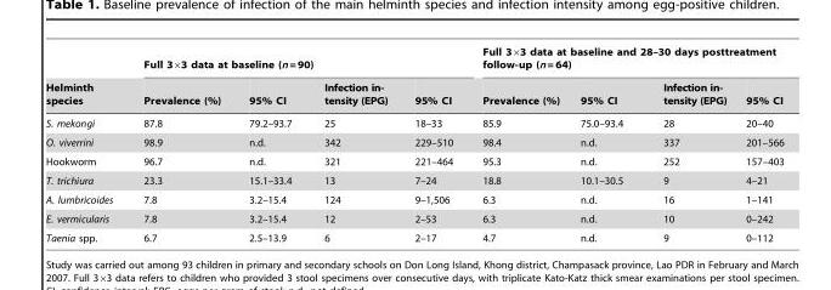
<table><thead><tr><td rowspan="2">Helminth species</td><td colspan="4">Full 3×3 data at baseline (n = 90)</td><td colspan="4">Full 3×3 data at baseline and 28–30 days posttreatment follow-up (n = 64)</td></tr><tr><td>Prevalence (%)</td><td>95% CI</td><td>Infection in- tensity (EPG)</td><td>95% CI</td><td>Prevalence (%)</td><td>95% CI</td><td>Infection in- tensity (EPG)</td><td>95% CI</td></tr></thead><tbody><tr><td>S. mekongi</td><td>87.8</td><td>79.2–93.7</td><td>25</td><td>18–33</td><td>85.9</td><td>75.0–93.4</td><td>28</td><td>20–40</td></tr><tr><td>O. viverrini</td><td>98.9</td><td>n.d.</td><td>342</td><td>229–510</td><td>98.4</td><td>n.d.</td><td>337</td><td>201–566</td></tr><tr><td>Hookworm</td><td>96.7</td><td>n.d.</td><td>321</td><td>221–464</td><td>95.3</td><td>n.d.</td><td>252</td><td>157–403</td></tr><tr><td>T. trichiura</td><td>23.3</td><td>15.1–33.4</td><td>13</td><td>7–24</td><td>18.8</td><td>10.1–30.5</td><td>9</td><td>4–21</td></tr><tr><td>A. lumbricoides</td><td>7.8</td><td>3.2–15.4</td><td>124</td><td>9–1,506</td><td>6.3</td><td>n.d.</td><td>16</td><td>1–141</td></tr><tr><td>E. vermicularis</td><td>7.8</td><td>3.2–15.4</td><td>12</td><td>2–53</td><td>6.3</td><td>n.d.</td><td>10</td><td>0–242</td></tr><tr><td>Taenia spp.</td><td>6.7</td><td>2.5–13.9</td><td>6</td><td>2–17</td><td>4.7</td><td>n.d.</td><td>9</td><td>0–112</td></tr></tbody></table>